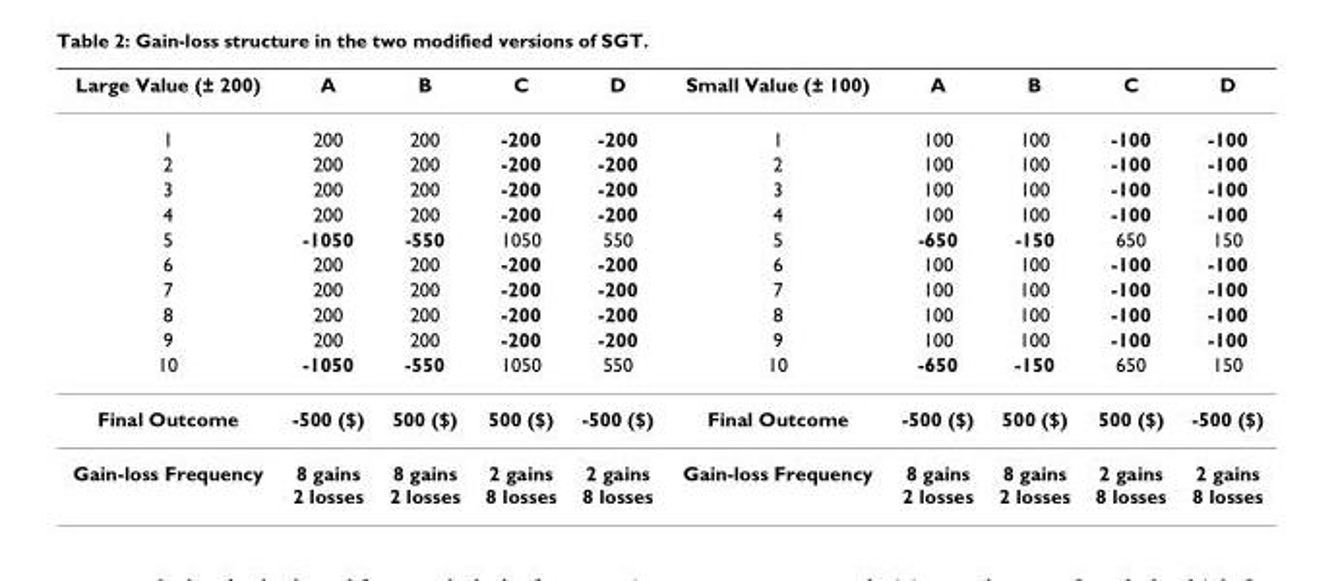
<table><thead><tr><td>Large Value (± 200)</td><td>A</td><td>B</td><td>C</td><td>D</td><td>Small Value (± 100)</td><td>A</td><td>B</td><td>C</td><td>D</td></tr></thead><tbody><tr><td>1</td><td>200</td><td>200</td><td>-200</td><td>-200</td><td>1</td><td>100</td><td>100</td><td>-100</td><td>-100</td></tr><tr><td>2</td><td>200</td><td>200</td><td>-200</td><td>-200</td><td>2</td><td>100</td><td>100</td><td>-100</td><td>-100</td></tr><tr><td>3</td><td>200</td><td>200</td><td>-200</td><td>-200</td><td>3</td><td>100</td><td>100</td><td>-100</td><td>-100</td></tr><tr><td>4</td><td>200</td><td>200</td><td>-200</td><td>-200</td><td>4</td><td>100</td><td>100</td><td>-100</td><td>-100</td></tr><tr><td>5</td><td>-1050</td><td>-550</td><td>1050</td><td>550</td><td>5</td><td>-650</td><td>-150</td><td>650</td><td>150</td></tr><tr><td>6</td><td>200</td><td>200</td><td>-200</td><td>-200</td><td>6</td><td>100</td><td>100</td><td>-100</td><td>-100</td></tr><tr><td>7</td><td>200</td><td>200</td><td>-200</td><td>-200</td><td>7</td><td>100</td><td>100</td><td>-100</td><td>-100</td></tr><tr><td>8</td><td>200</td><td>200</td><td>-200</td><td>-200</td><td>8</td><td>100</td><td>100</td><td>-100</td><td>-100</td></tr><tr><td>9</td><td>200</td><td>200</td><td>-200</td><td>-200</td><td>9</td><td>100</td><td>100</td><td>-100</td><td>-100</td></tr><tr><td>10</td><td>-1050</td><td>-550</td><td>1050</td><td>550</td><td>10</td><td>-650</td><td>-150</td><td>650</td><td>150</td></tr><tr><td>Final Outcome</td><td>-500 ($)</td><td>500 ($)</td><td>500 ($)</td><td>-500 ($)</td><td>Final Outcome</td><td>-500 ($)</td><td>500 ($)</td><td>500 ($)</td><td>-500 ($)</td></tr><tr><td>Gain-loss Frequency</td><td>8 gains 2 losses</td><td>8 gains 2 losses</td><td>2 gains 8 losses</td><td>2 gains 8 losses</td><td>Gain-loss Frequency</td><td>8 gains 2 losses</td><td>8 gains 2 losses</td><td>2 gains 8 losses</td><td>2 gains 8 losses</td></tr></tbody></table>